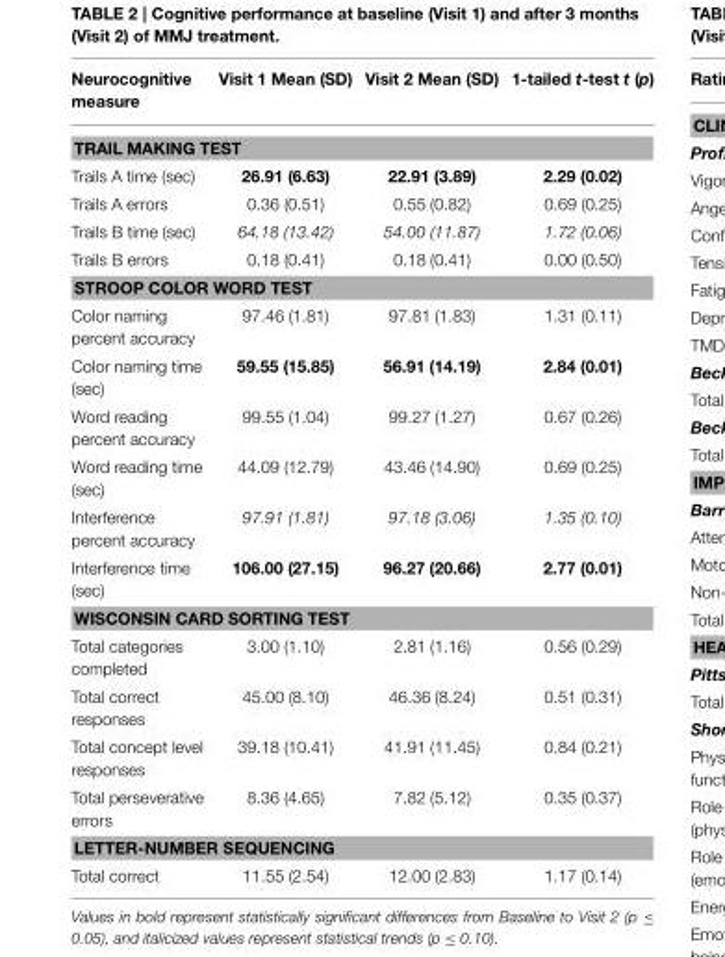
<table><thead><tr><td>Neurocognitive measure</td><td>Visit 1 Mean (SD)</td><td>Visit 2 Mean (SD)</td><td>1-tailed t-test t (p)</td></tr></thead><tbody><tr><td colspan="4">TRAIL MAKING TEST</td></tr><tr><td>Trails A time (sec)</td><td>26.91 (6.63)</td><td>22.91 (3.89)</td><td>2.29 (0.02)</td></tr><tr><td>Trails A errors</td><td>0.36 (0.51)</td><td>0.55 (0.82)</td><td>0.69 (0.25)</td></tr><tr><td>Trails B time (sec)</td><td>64.18 (13.42)</td><td>54.00 (11.87)</td><td>1.72 (0.06)</td></tr><tr><td>Trails B errors</td><td>0.18 (0.41)</td><td>0.18 (0.41)</td><td>0.00 (0.50)</td></tr><tr><td colspan="4">STROOP COLOR WORD TEST</td></tr><tr><td>Color naming percent accuracy</td><td>97.46 (1.81)</td><td>97.81 (1.83)</td><td>1.31 (0.11)</td></tr><tr><td>Color naming time (sec)</td><td>59.55 (15.85)</td><td>56.91 (14.19)</td><td>2.84 (0.01)</td></tr><tr><td>Word reading percent accuracy</td><td>99.55 (1.04)</td><td>99.27 (1.27)</td><td>0.67 (0.26)</td></tr><tr><td>Word reading time (sec)</td><td>44.09 (12.79)</td><td>43.46 (14.90)</td><td>0.69 (0.25)</td></tr><tr><td>Interference percent accuracy</td><td>97.91 (1.81)</td><td>97.18 (3.06)</td><td>1.35 (0.10)</td></tr><tr><td>Interference time (sec)</td><td>106.00 (27.15)</td><td>96.27 (20.66)</td><td>2.77 (0.01)</td></tr><tr><td colspan="4">WISCONSIN CARD SORTING TEST</td></tr><tr><td>Total categories completed</td><td>3.00 (1.10)</td><td>2.81 (1.16)</td><td>0.56 (0.29)</td></tr><tr><td>Total correct responses</td><td>45.00 (8.10)</td><td>46.36 (8.24)</td><td>0.51 (0.31)</td></tr><tr><td>Total concept level responses</td><td>39.18 (10.41)</td><td>41.91 (11.45)</td><td>0.84 (0.21)</td></tr><tr><td>Total perseverative errors</td><td>8.36 (4.65)</td><td>7.82 (5.12)</td><td>0.35 (0.37)</td></tr><tr><td colspan="4">LETTER-NUMBER SEQUENCING</td></tr><tr><td>Total correct</td><td>11.55 (2.54)</td><td>12.00 (2.83)</td><td>1.17 (0.14)</td></tr></tbody></table>